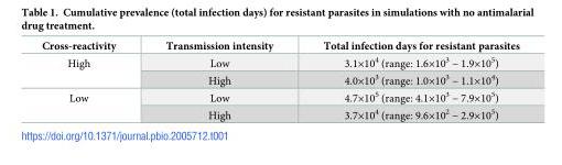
<table><thead><tr><td>Cross-reactivity</td><td>Transmission intensity</td><td>Total infection days for resistant parasites</td></tr></thead><tbody><tr><td rowspan="2">High</td><td>Low</td><td>3.1×10<sup>4</sup> (range: 1.6×10<sup>3</sup> − 1.9×10<sup>5</sup>)</td></tr><tr><td>High</td><td>4.0×10<sup>3</sup> (range: 1.0×10<sup>3</sup> − 1.1×10<sup>4</sup>)</td></tr><tr><td rowspan="2">Low</td><td>Low</td><td>4.7×10<sup>5</sup> (range: 4.1×10<sup>3</sup> − 7.9×10<sup>5</sup>)</td></tr><tr><td>High</td><td>3.7×10<sup>4</sup> (range: 9.6×10<sup>2</sup> − 2.9×10<sup>5</sup>)</td></tr></tbody></table>